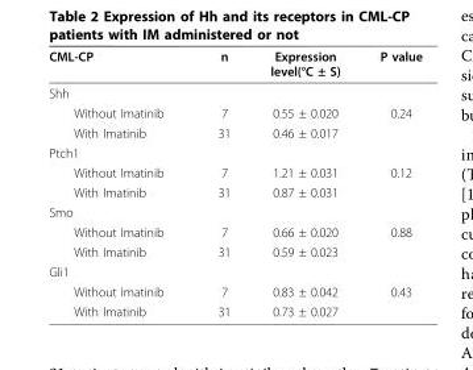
<table><thead><tr><td>CML-CP</td><td>n</td><td>Expression level(°C ± S)</td><td>P value</td></tr></thead><tbody><tr><td colspan="4">Shh</td></tr><tr><td>Without Imatinib</td><td>7</td><td>0.55 ± 0.020</td><td>0.24</td></tr><tr><td>With Imatinib</td><td>31</td><td>0.46 ± 0.017</td><td></td></tr><tr><td colspan="4">Ptch1</td></tr><tr><td>Without Imatinib</td><td>7</td><td>1.21 ± 0.031</td><td>0.12</td></tr><tr><td>With Imatinib</td><td>31</td><td>0.87 ± 0.031</td><td></td></tr><tr><td colspan="4">Smo</td></tr><tr><td>Without Imatinib</td><td>7</td><td>0.66 ± 0.020</td><td>0.88</td></tr><tr><td>With Imatinib</td><td>31</td><td>0.59 ± 0.023</td><td></td></tr><tr><td colspan="4">Gli1</td></tr><tr><td>Without Imatinib</td><td>7</td><td>0.83 ± 0.042</td><td>0.43</td></tr><tr><td>With Imatinib</td><td>31</td><td>0.73 ± 0.027</td><td></td></tr></tbody></table>